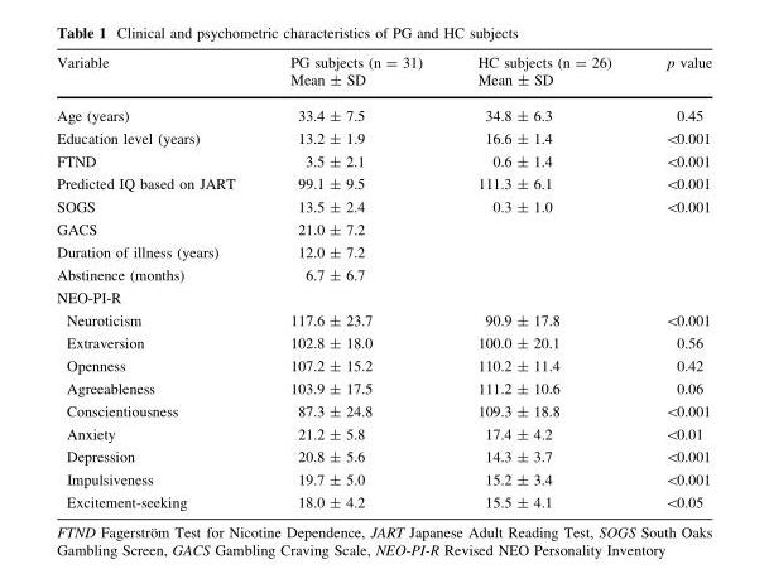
<table><thead><tr><td>Variable</td><td>PG subjects (n = 31) Mean ± SD</td><td>HC subjects (n = 26) Mean ± SD</td><td>p value</td></tr></thead><tbody><tr><td>Age (years)</td><td>33.4 ± 7.5</td><td>34.8 ± 6.3</td><td>0.45</td></tr><tr><td>Education level (years)</td><td>13.2 ± 1.9</td><td>16.6 ± 1.4</td><td>&lt;0.001</td></tr><tr><td>FTND</td><td>3.5 ± 2.1</td><td>0.6 ± 1.4</td><td>&lt;0.001</td></tr><tr><td>Predicted IQ based on JART</td><td>99.1 ± 9.5</td><td>111.3 ± 6.1</td><td>&lt;0.001</td></tr><tr><td>SOGS</td><td>13.5 ± 2.4</td><td>0.3 ± 1.0</td><td>&lt;0.001</td></tr><tr><td>GACS</td><td>21.0 ± 7.2</td><td></td><td></td></tr><tr><td>Duration of illness (years)</td><td>12.0 ± 7.2</td><td></td><td></td></tr><tr><td>Abstinence (months)</td><td>6.7 ± 6.7</td><td></td><td></td></tr><tr><td colspan="4">NEO-PI-R</td></tr><tr><td>Neuroticism</td><td>117.6 ± 23.7</td><td>90.9 ± 17.8</td><td>&lt;0.001</td></tr><tr><td>Extraversion</td><td>102.8 ± 18.0</td><td>100.0 ± 20.1</td><td>0.56</td></tr><tr><td>Openness</td><td>107.2 ± 15.2</td><td>110.2 ± 11.4</td><td>0.42</td></tr><tr><td>Agreeableness</td><td>103.9 ± 17.5</td><td>111.2 ± 10.6</td><td>0.06</td></tr><tr><td>Conscientiousness</td><td>87.3 ± 24.8</td><td>109.3 ± 18.8</td><td>&lt;0.001</td></tr><tr><td>Anxiety</td><td>21.2 ± 5.8</td><td>17.4 ± 4.2</td><td>&lt;0.01</td></tr><tr><td>Depression</td><td>20.8 ± 5.6</td><td>14.3 ± 3.7</td><td>&lt;0.001</td></tr><tr><td>Impulsiveness</td><td>19.7 ± 5.0</td><td>15.2 ± 3.4</td><td>&lt;0.001</td></tr><tr><td>Excitement-seeking</td><td>18.0 ± 4.2</td><td>15.5 ± 4.1</td><td>&lt;0.05</td></tr></tbody></table>